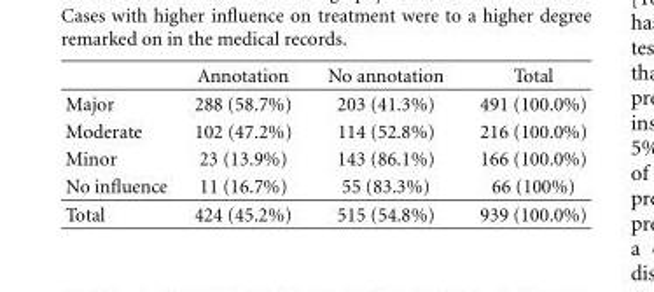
<table><thead><tr><td></td><td>Annotation</td><td>No annotation</td><td>Total</td></tr></thead><tbody><tr><td>Major</td><td>288 (58.7%)</td><td>203 (41.3%)</td><td>491 (100.0%)</td></tr><tr><td>Moderate</td><td>102 (47.2%)</td><td>114 (52.8%)</td><td>216 (100.0%)</td></tr><tr><td>Minor</td><td>23 (13.9%)</td><td>143 (86.1%)</td><td>166 (100.0%)</td></tr><tr><td>No influence</td><td>11 (16.7%)</td><td>55 (83.3%)</td><td>66 (100%)</td></tr><tr><td>Total</td><td>424 (45.2%)</td><td>515 (54.8%)</td><td>939 (100.0%)</td></tr></tbody></table>